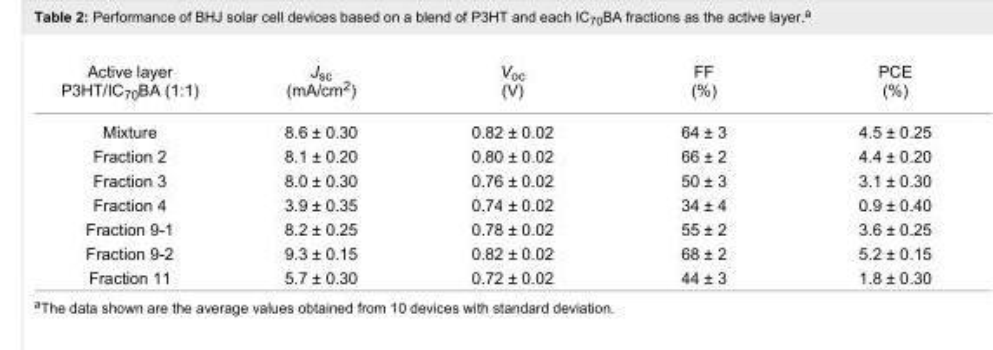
<table><tbody><tr><td>Active layer P3HT/IC<sub>70</sub>BA (1:1)</td><td>J<sub>sc</sub> (mA/cm<sup>2</sup>)</td><td>V<sub>oc</sub> (V)</td><td>FF (%)</td><td>PCE (%)</td></tr><tr><td>Mixture</td><td>8.6 ± 0.30</td><td>0.82 ± 0.02</td><td>64 ± 3</td><td>4.5 ± 0.25</td></tr><tr><td>Fraction 2</td><td>8.1 ± 0.20</td><td>0.80 ± 0.02</td><td>66 ± 2</td><td>4.4 ± 0.20</td></tr><tr><td>Fraction 3</td><td>8.0 ± 0.30</td><td>0.76 ± 0.02</td><td>50 ± 3</td><td>3.1 ± 0.30</td></tr><tr><td>Fraction 4</td><td>3.9 ± 0.35</td><td>0.74 ± 0.02</td><td>34 ± 4</td><td>0.9 ± 0.40</td></tr><tr><td>Fraction 9-1</td><td>8.2 ± 0.25</td><td>0.78 ± 0.02</td><td>55 ± 2</td><td>3.6 ± 0.25</td></tr><tr><td>Fraction 9-2</td><td>9.3 ± 0.15</td><td>0.82 ± 0.02</td><td>68 ± 2</td><td>5.2 ± 0.15</td></tr><tr><td>Fraction 11</td><td>5.7 ± 0.30</td><td>0.72 ± 0.02</td><td>44 ± 3</td><td>1.8 ± 0.30</td></tr></tbody></table>